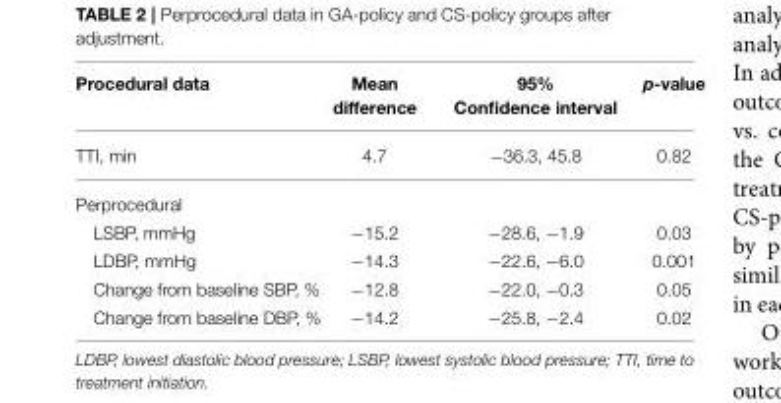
<table><thead><tr><td>Procedural data</td><td>Mean difference</td><td>95% Confidence interval</td><td>p-value</td></tr></thead><tbody><tr><td>TTI, min</td><td>4.7</td><td>−36.3, 45.8</td><td>0.82</td></tr><tr><td colspan="4">Perprocedural</td></tr><tr><td>LSBP, mmHg</td><td>−15.2</td><td>−28.6, −1.9</td><td>0.03</td></tr><tr><td>LDBP, mmHg</td><td>−14.3</td><td>−22.6, −6.0</td><td>0.001</td></tr><tr><td>Change from baseline SBP, %</td><td>−12.8</td><td>−22.0, −0.3</td><td>0.05</td></tr><tr><td>Change from baseline DBP, %</td><td>−14.2</td><td>−25.8, −2.4</td><td>0.02</td></tr></tbody></table>